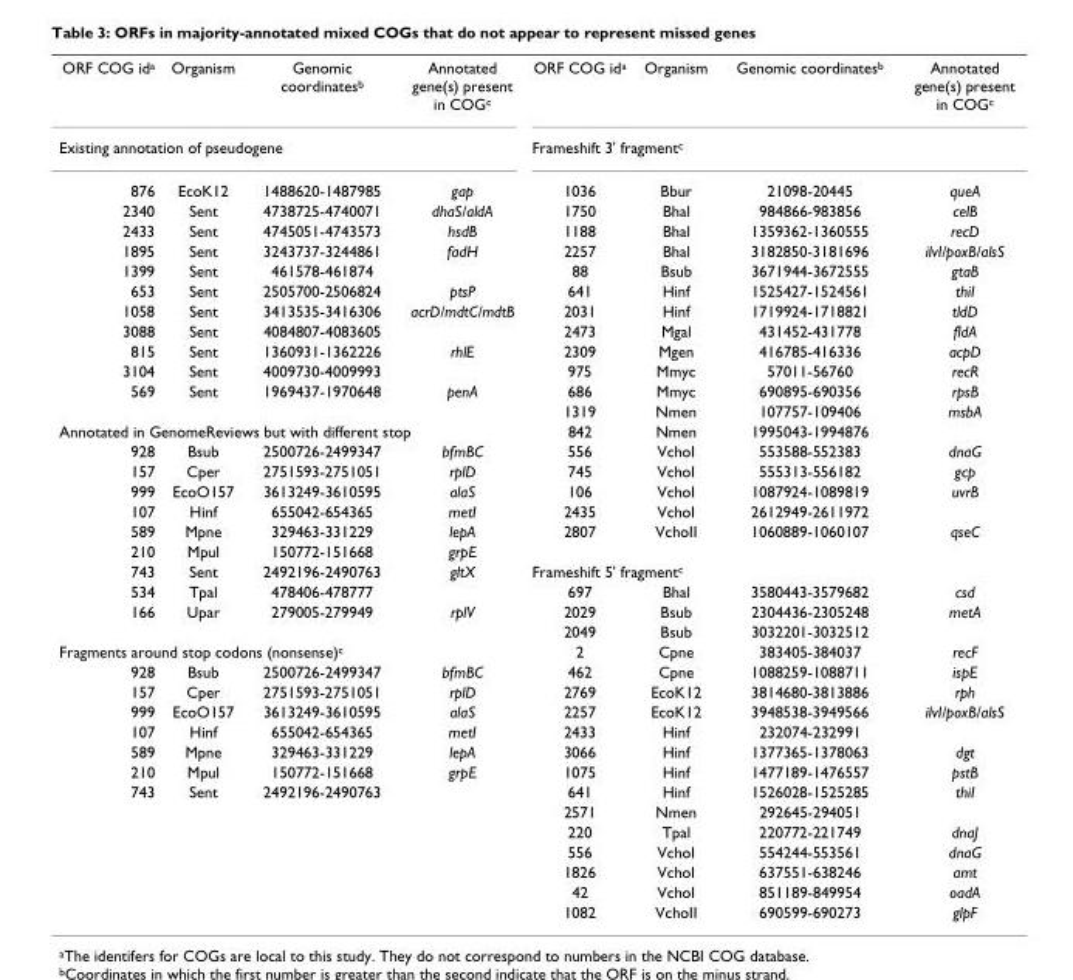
<table><tbody><tr><td>ORF COG ida</td><td>Organism</td><td>Genomic coordinatesb</td><td>Annotated gene(s) present in COGc</td><td>ORF COG ida</td><td>Organism</td><td>Genomic coordinatesb</td><td>Annotated gene(s) present in COGc</td></tr><tr><td colspan="4">Existing annotation of pseudogene</td><td colspan="4">Frameshift 3&#x27; fragmentc</td></tr><tr><td>876</td><td>EcoK12</td><td>1488620-1487985</td><td>gap</td><td>1036</td><td>Bbur</td><td>21098-20445</td><td>queA</td></tr><tr><td>2340</td><td>Sent</td><td>4738725-4740071</td><td>dhaS/aldA</td><td>1750</td><td>Bhal</td><td>984866-983856</td><td>celB</td></tr><tr><td>2433</td><td>Sent</td><td>4745051-4743573</td><td>hsdB</td><td>1188</td><td>Bhal</td><td>1359362-1360555</td><td>recD</td></tr><tr><td>1895</td><td>Sent</td><td>3243737-3244861</td><td>fadH</td><td>2257</td><td>Bhal</td><td>3182850-3181696</td><td>ilvI/poxB/alsS</td></tr><tr><td>1399</td><td>Sent</td><td>461578-461874</td><td></td><td>88</td><td>Bsub</td><td>3671944-3672555</td><td>gtaB</td></tr><tr><td>653</td><td>Sent</td><td>2505700-2506824</td><td>ptsP</td><td>641</td><td>Hinf</td><td>1525427-1524561</td><td>thiI</td></tr><tr><td>1058</td><td>Sent</td><td>3413535-3416306</td><td>acrD/mdtC/mdtB</td><td>2031</td><td>Hinf</td><td>1719924-1718821</td><td>tldD</td></tr><tr><td>3088</td><td>Sent</td><td>4084807-4083605</td><td></td><td>2473</td><td>Mgal</td><td>431452-431778</td><td>fldA</td></tr><tr><td>815</td><td>Sent</td><td>1360931-1362226</td><td>rhlE</td><td>2309</td><td>Mgen</td><td>416785-416336</td><td>acpD</td></tr><tr><td>3104</td><td>Sent</td><td>4009730-4009993</td><td></td><td>975</td><td>Mmyc</td><td>57011-56760</td><td>recR</td></tr><tr><td rowspan="2">569</td><td>Sent</td><td>1969437-1970648</td><td>penA</td><td>686</td><td>Mmyc</td><td>690895-690356</td><td>rpsB</td></tr><tr><td></td><td></td><td></td><td>1319</td><td>Nmen</td><td>107757-109406</td><td>msbA</td></tr><tr><td colspan="4">Annotated in GenomeReviews but with different stop</td><td>842</td><td>Nmen</td><td>1995043-1994876</td><td></td></tr><tr><td>928</td><td>Bsub</td><td>2500726-2499347</td><td>bfmBC</td><td>556</td><td>VchoI</td><td>553588-552383</td><td>dnaG</td></tr><tr><td>157</td><td>Cper</td><td>2751593-2751051</td><td>rplD</td><td>745</td><td>VchoI</td><td>555313-556182</td><td>gcp</td></tr><tr><td>999</td><td>EcoO157</td><td>3613249-3610595</td><td>alaS</td><td>106</td><td>VchoI</td><td>1087924-1089819</td><td>uvrB</td></tr><tr><td>107</td><td>Hinf</td><td>655042-654365</td><td>metI</td><td>2435</td><td>VchoI</td><td>2612949-2611972</td><td></td></tr><tr><td>589</td><td>Mpne</td><td>329463-331229</td><td>lepA</td><td>2807</td><td>VchoII</td><td>1060889-1060107</td><td>qseC</td></tr><tr><td>210</td><td>Mpul</td><td>150772-151668</td><td>grpE</td><td></td><td></td><td></td><td></td></tr><tr><td>743</td><td>Sent</td><td>2492196-2490763</td><td>gltX</td><td colspan="4">Frameshift 5&#x27; fragmentc</td></tr><tr><td>534</td><td>Tpal</td><td>478406-478777</td><td></td><td>697</td><td>Bhal</td><td>3580443-3579682</td><td>csd</td></tr><tr><td rowspan="2">166</td><td>Upar</td><td>279005-279949</td><td>rplV</td><td>2029</td><td>Bsub</td><td>2304436-2305248</td><td>metA</td></tr><tr><td></td><td></td><td></td><td>2049</td><td>Bsub</td><td>3032201-3032512</td><td></td></tr><tr><td colspan="4">Fragments around stop codons (nonsense)c</td><td>2</td><td>Cpne</td><td>383405-384037</td><td>recF</td></tr><tr><td>928</td><td>Bsub</td><td>2500726-2499347</td><td>bfmBC</td><td>462</td><td>Cpne</td><td>1088259-1088711</td><td>ispE</td></tr><tr><td>157</td><td>Cper</td><td>2751593-2751051</td><td>rplD</td><td>2769</td><td>EcoK12</td><td>3814680-3813886</td><td>rph</td></tr><tr><td>999</td><td>EcoO157</td><td>3613249-3610595</td><td>alaS</td><td>2257</td><td>EcoK12</td><td>3948538-3949566</td><td>ilvI/poxB/alsS</td></tr><tr><td>107</td><td>Hinf</td><td>655042-654365</td><td>metI</td><td>2433</td><td>Hinf</td><td>232074-232991</td><td></td></tr><tr><td>589</td><td>Mpne</td><td>329463-331229</td><td>lepA</td><td>3066</td><td>Hinf</td><td>1377365-1378063</td><td>dgt</td></tr><tr><td>210</td><td>Mpul</td><td>150772-151668</td><td>grpE</td><td>1075</td><td>Hinf</td><td>1477189-1476557</td><td>pstB</td></tr><tr><td rowspan="7">743</td><td>Sent</td><td>2492196-2490763</td><td></td><td>641</td><td>Hinf</td><td>1526028-1525285</td><td>thiI</td></tr><tr><td></td><td></td><td></td><td>2571</td><td>Nmen</td><td>292645-294051</td><td></td></tr><tr><td></td><td></td><td></td><td>220</td><td>Tpal</td><td>220772-221749</td><td>dnaJ</td></tr><tr><td></td><td></td><td></td><td>556</td><td>VchoI</td><td>554244-553561</td><td>dnaG</td></tr><tr><td></td><td></td><td></td><td>1826</td><td>VchoI</td><td>637551-638246</td><td>amt</td></tr><tr><td></td><td></td><td></td><td>42</td><td>VchoI</td><td>851189-849954</td><td>oadA</td></tr><tr><td></td><td></td><td></td><td>1082</td><td>VchoII</td><td>690599-690273</td><td>glpF</td></tr></tbody></table>